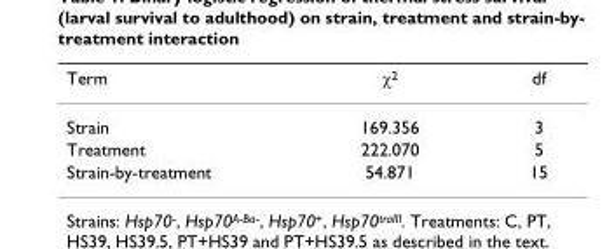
<table><thead><tr><td>Term</td><td>χ<sup>2</sup></td><td>df</td></tr></thead><tbody><tr><td>Strain</td><td>169.356</td><td>3</td></tr><tr><td>Treatment</td><td>222.070</td><td>5</td></tr><tr><td>Strain-by-treatment</td><td>54.871</td><td>15</td></tr></tbody></table>